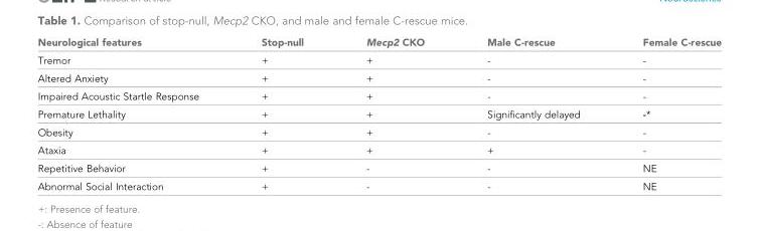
<table><thead><tr><td>Neurological features</td><td>Stop-null</td><td>Mecp2 CKO</td><td>Male C-rescue</td><td>Female C-rescue</td></tr></thead><tbody><tr><td>Tremor</td><td>+</td><td>+</td><td>-</td><td>-</td></tr><tr><td>Altered Anxiety</td><td>+</td><td>+</td><td>-</td><td>-</td></tr><tr><td>Impaired Acoustic Startle Response</td><td>+</td><td>+</td><td>-</td><td>-</td></tr><tr><td>Premature Lethality</td><td>+</td><td>+</td><td>Significantly delayed</td><td>-*</td></tr><tr><td>Obesity</td><td>+</td><td>+</td><td>-</td><td>-</td></tr><tr><td>Ataxia</td><td>+</td><td>+</td><td>+</td><td>-</td></tr><tr><td>Repetitive Behavior</td><td>+</td><td>-</td><td>-</td><td>NE</td></tr><tr><td>Abnormal Social Interaction</td><td>+</td><td>-</td><td>-</td><td>NE</td></tr></tbody></table>